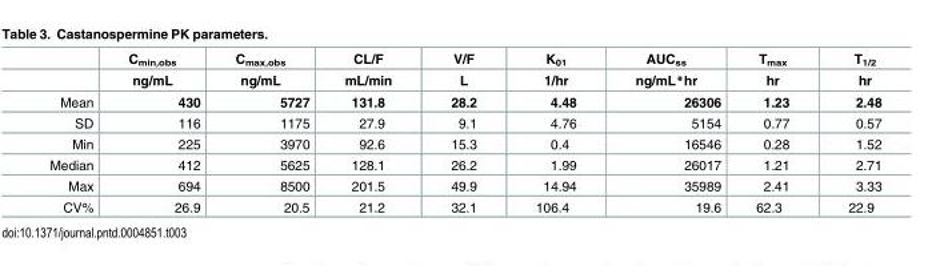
<table><thead><tr><td rowspan="2"></td><td rowspan="2">C<sub>min,obs</sub> ng/mL</td><td rowspan="2">C<sub>max,obs</sub> ng/mL</td><td rowspan="2">CL/F mL/min</td><td rowspan="2">V/F L</td><td rowspan="2">K<sub>01</sub> 1/hr</td><td rowspan="2">AUC<sub>ss</sub> ng/mL*hr</td><td rowspan="2">T<sub>max</sub> hr</td><td rowspan="2">T<sub>1/2</sub> hr</td></tr><tr></tr></thead><tbody><tr><td>Mean</td><td>430</td><td>5727</td><td>131.8</td><td>28.2</td><td>4.48</td><td>26306</td><td>1.23</td><td>2.48</td></tr><tr><td>SD</td><td>116</td><td>1175</td><td>27.9</td><td>9.1</td><td>4.76</td><td>5154</td><td>0.77</td><td>0.57</td></tr><tr><td>Min</td><td>225</td><td>3970</td><td>92.6</td><td>15.3</td><td>0.4</td><td>16546</td><td>0.28</td><td>1.52</td></tr><tr><td>Median</td><td>412</td><td>5625</td><td>128.1</td><td>26.2</td><td>1.99</td><td>26017</td><td>1.21</td><td>2.71</td></tr><tr><td>Max</td><td>694</td><td>8500</td><td>201.5</td><td>49.9</td><td>14.94</td><td>35989</td><td>2.41</td><td>3.33</td></tr><tr><td>CV%</td><td>26.9</td><td>20.5</td><td>21.2</td><td>32.1</td><td>106.4</td><td>19.6</td><td>62.3</td><td>22.9</td></tr></tbody></table>